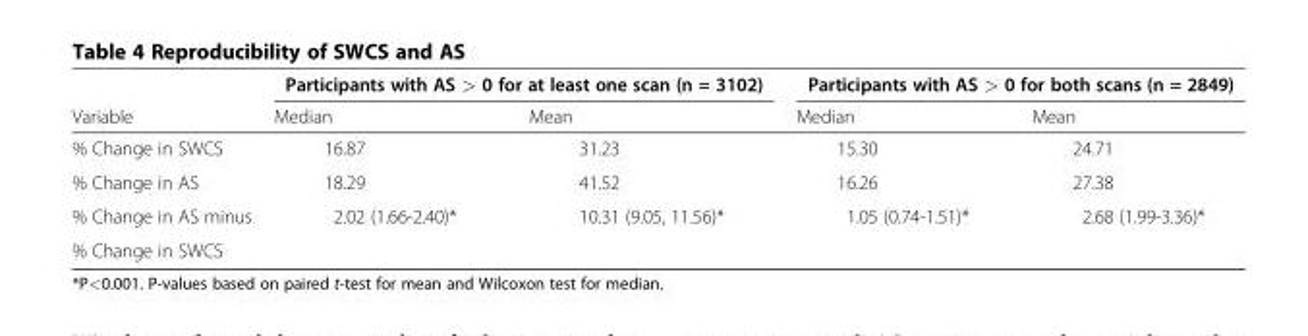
<table><thead><tr><td rowspan="2">Variable</td><td colspan="2">Participants with AS &gt; 0 for at least one scan (n = 3102)</td><td colspan="2">Participants with AS &gt; 0 for both scans (n = 2849)</td></tr><tr><td>Median</td><td>Mean</td><td>Median</td><td>Mean</td></tr></thead><tbody><tr><td>% Change in SWCS</td><td>16.87</td><td>31.23</td><td>15.30</td><td>24.71</td></tr><tr><td>% Change in AS</td><td>18.29</td><td>41.52</td><td>16.26</td><td>27.38</td></tr><tr><td>% Change in AS minus</td><td>2.02 (1.66-2.40)*</td><td>10.31 (9.05, 11.56)*</td><td>1.05 (0.74-1.51)*</td><td>2.68 (1.99-3.36)*</td></tr><tr><td>% Change in SWCS</td><td></td><td></td><td></td><td></td></tr></tbody></table>